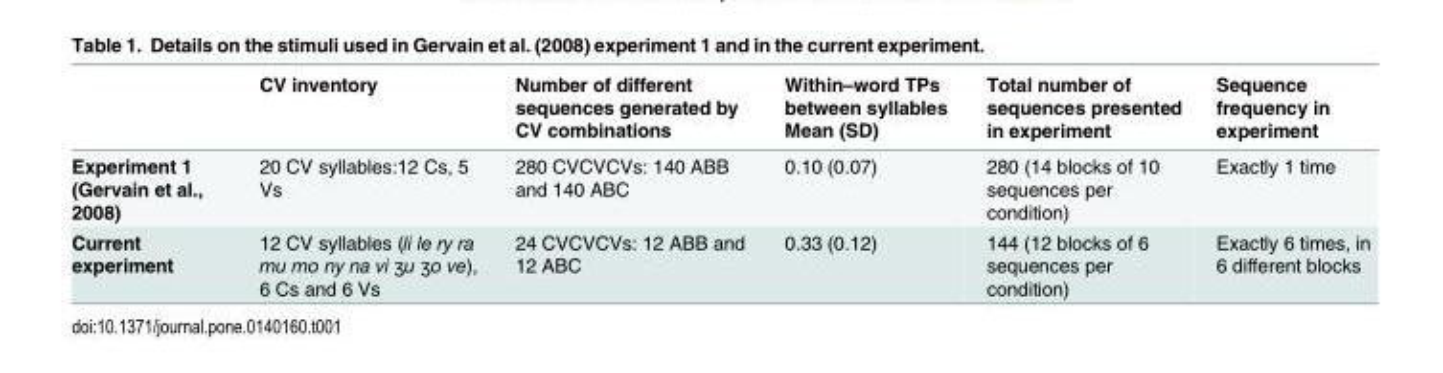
<table><thead><tr><td></td><td>CV inventory</td><td>Number of different sequences generated by CV combinations</td><td>Within–word TPs between syllables Mean (SD)</td><td>Total number of sequences presented in experiment</td><td>Sequence frequency in experiment</td></tr></thead><tbody><tr><td>Experiment 1 (Gervain et al., 2008)</td><td>20 CV syllables:12 Cs, 5 Vs</td><td>280 CVCVCVs: 140 ABB and 140 ABC</td><td>0.10 (0.07)</td><td>280 (14 blocks of 10 sequences per condition)</td><td>Exactly 1 time</td></tr><tr><td>Current experiment</td><td>12 CV syllables (li le ry ra mu mo ny na vi ʒu ʒo ve), 6 Cs and 6 Vs</td><td>24 CVCVCVs: 12 ABB and 12 ABC</td><td>0.33 (0.12)</td><td>144 (12 blocks of 6 sequences per condition)</td><td>Exactly 6 times, in 6 different blocks</td></tr></tbody></table>